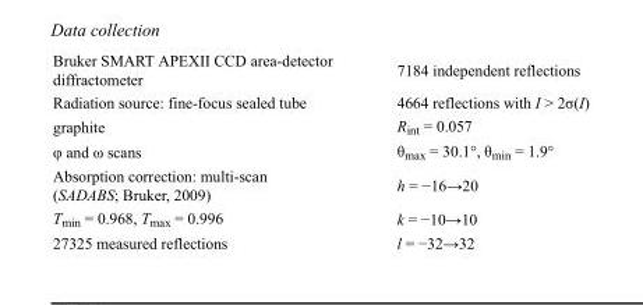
<table><tbody><tr><td>Bruker SMART APEXII CCD area-detector diffractometer</td><td>7184 independent reflections</td></tr><tr><td>Radiation source: fine-focus sealed tube</td><td>4664 reflections with I &gt; 2σ(I)</td></tr><tr><td>graphite</td><td>R<sub>int</sub> = 0.057</td></tr><tr><td>φ and ω scans</td><td>θ<sub>max</sub> = 30.1°, θ<sub>min</sub> = 1.9°</td></tr><tr><td>Absorption correction: multi-scan (SADABS; Bruker, 2009)</td><td>h = −16→20</td></tr><tr><td>T<sub>min</sub> = 0.968, T<sub>max</sub> = 0.996</td><td>k = −10→10</td></tr><tr><td>27325 measured reflections</td><td>l = −32→32</td></tr></tbody></table>